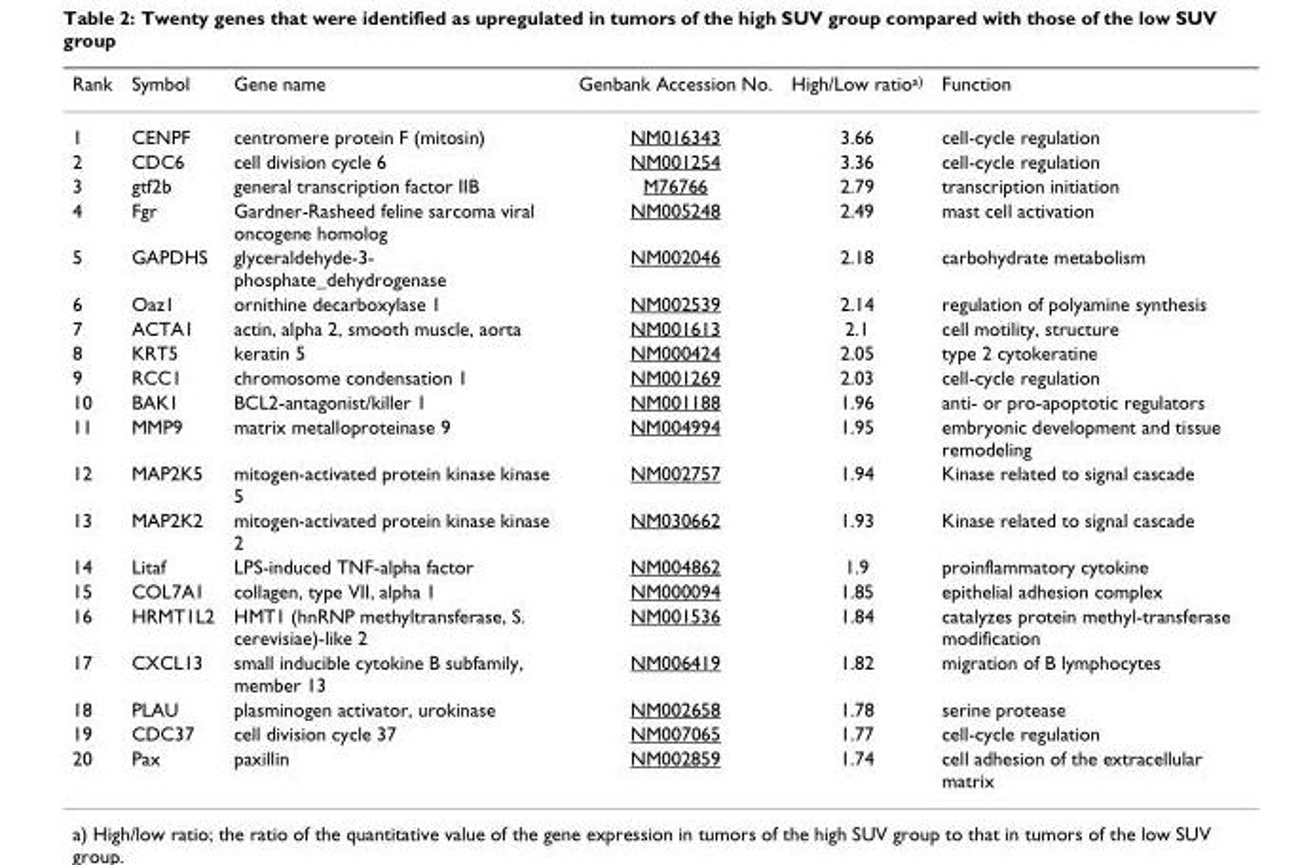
<table><thead><tr><td>Rank</td><td>Symbol</td><td>Gene name</td><td>Genbank Accession No.</td><td>High/Low ratio<sup>a)</sup></td><td>Function</td></tr></thead><tbody><tr><td>1</td><td>CENPF</td><td>centromere protein F (mitosin)</td><td>NM016343</td><td>3.66</td><td>cell-cycle regulation</td></tr><tr><td>2</td><td>CDC6</td><td>cell division cycle 6</td><td>NM001254</td><td>3.36</td><td>cell-cycle regulation</td></tr><tr><td>3</td><td>gtf2b</td><td>general transcription factor IIB</td><td>M76766</td><td>2.79</td><td>transcription initiation</td></tr><tr><td>4</td><td>Fgr</td><td>Gardner-Rasheed feline sarcoma viral oncogene homolog</td><td>NM005248</td><td>2.49</td><td>mast cell activation</td></tr><tr><td>5</td><td>GAPDHS</td><td>glyceraldehyde-3- phosphate_dehydrogenase</td><td>NM002046</td><td>2.18</td><td>carbohydrate metabolism</td></tr><tr><td>6</td><td>Oaz1</td><td>ornithine decarboxylase 1</td><td>NM002539</td><td>2.14</td><td>regulation of polyamine synthesis</td></tr><tr><td>7</td><td>ACTA1</td><td>actin, alpha 2, smooth muscle, aorta</td><td>NM001613</td><td>2.1</td><td>cell motility, structure</td></tr><tr><td>8</td><td>KRT5</td><td>keratin 5</td><td>NM000424</td><td>2.05</td><td>type 2 cytokeratine</td></tr><tr><td>9</td><td>RCC1</td><td>chromosome condensation 1</td><td>NM001269</td><td>2.03</td><td>cell-cycle regulation</td></tr><tr><td>10</td><td>BAK1</td><td>BCL2-antagonist/killer 1</td><td>NM001188</td><td>1.96</td><td>anti- or pro-apoptotic regulators</td></tr><tr><td>11</td><td>MMP9</td><td>matrix metalloproteinase 9</td><td>NM004994</td><td>1.95</td><td>embryonic development and tissue remodeling</td></tr><tr><td>12</td><td>MAP2K5</td><td>mitogen-activated protein kinase kinase 5</td><td>NM002757</td><td>1.94</td><td>Kinase related to signal cascade</td></tr><tr><td>13</td><td>MAP2K2</td><td>mitogen-activated protein kinase kinase 2</td><td>NM030662</td><td>1.93</td><td>Kinase related to signal cascade</td></tr><tr><td>14</td><td>Litaf</td><td>LPS-induced TNF-alpha factor</td><td>NM004862</td><td>1.9</td><td>proinflammatory cytokine</td></tr><tr><td>15</td><td>COL7A1</td><td>collagen, type VII, alpha 1</td><td>NM000094</td><td>1.85</td><td>epithelial adhesion complex</td></tr><tr><td>16</td><td>HRMT1L2</td><td>HMT1 (hnRNP methyltransferase, S. cerevisiae)-like 2</td><td>NM001536</td><td>1.84</td><td>catalyzes protein methyl-transferase modification</td></tr><tr><td>17</td><td>CXCL13</td><td>small inducible cytokine B subfamily, member 13</td><td>NM006419</td><td>1.82</td><td>migration of B lymphocytes</td></tr><tr><td>18</td><td>PLAU</td><td>plasminogen activator, urokinase</td><td>NM002658</td><td>1.78</td><td>serine protease</td></tr><tr><td>19</td><td>CDC37</td><td>cell division cycle 37</td><td>NM007065</td><td>1.77</td><td>cell-cycle regulation</td></tr><tr><td>20</td><td>Pax</td><td>paxillin</td><td>NM002859</td><td>1.74</td><td>cell adhesion of the extracellular matrix</td></tr></tbody></table>